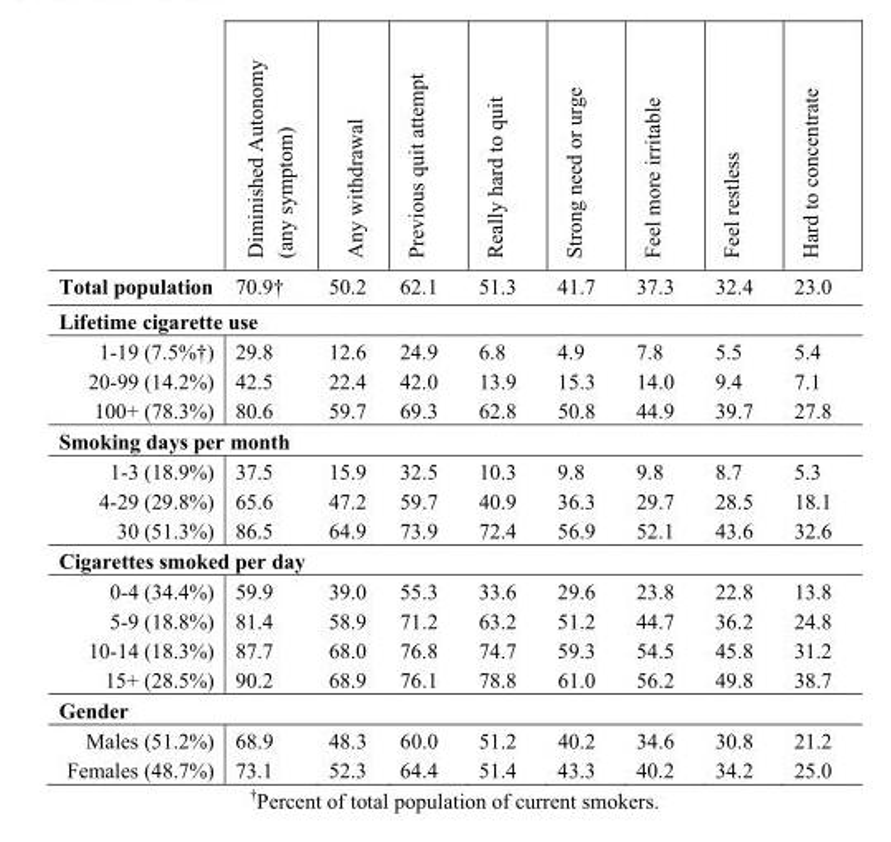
<table><thead><tr><td></td><td>Diminished Autonomy (any symptom)</td><td>Any withdrawal</td><td>Previous quit attempt</td><td>Really hard to quit</td><td>Strong need or urge</td><td>Feel more irritable</td><td>Feel restless</td><td>Hard to concentrate</td></tr></thead><tbody><tr><td>Total population</td><td>70.9†</td><td>50.2</td><td>62.1</td><td>51.3</td><td>41.7</td><td>37.3</td><td>32.4</td><td>23.0</td></tr><tr><td colspan="9">Lifetime cigarette use</td></tr><tr><td>1-19 (7.5%†)</td><td>29.8</td><td>12.6</td><td>24.9</td><td>6.8</td><td>4.9</td><td>7.8</td><td>5.5</td><td>5.4</td></tr><tr><td>20-99 (14.2%)</td><td>42.5</td><td>22.4</td><td>42.0</td><td>13.9</td><td>15.3</td><td>14.0</td><td>9.4</td><td>7.1</td></tr><tr><td>100+ (78.3%)</td><td>80.6</td><td>59.7</td><td>69.3</td><td>62.8</td><td>50.8</td><td>44.9</td><td>39.7</td><td>27.8</td></tr><tr><td colspan="9">Smoking days per month</td></tr><tr><td>1-3 (18.9%)</td><td>37.5</td><td>15.9</td><td>32.5</td><td>10.3</td><td>9.8</td><td>9.8</td><td>8.7</td><td>5.3</td></tr><tr><td>4-29 (29.8%)</td><td>65.6</td><td>47.2</td><td>59.7</td><td>40.9</td><td>36.3</td><td>29.7</td><td>28.5</td><td>18.1</td></tr><tr><td>30 (51.3%)</td><td>86.5</td><td>64.9</td><td>73.9</td><td>72.4</td><td>56.9</td><td>52.1</td><td>43.6</td><td>32.6</td></tr><tr><td colspan="9">Cigarettes smoked per day</td></tr><tr><td>0-4 (34.4%)</td><td>59.9</td><td>39.0</td><td>55.3</td><td>33.6</td><td>29.6</td><td>23.8</td><td>22.8</td><td>13.8</td></tr><tr><td>5-9 (18.8%)</td><td>81.4</td><td>58.9</td><td>71.2</td><td>63.2</td><td>51.2</td><td>44.7</td><td>36.2</td><td>24.8</td></tr><tr><td>10-14 (18.3%)</td><td>87.7</td><td>68.0</td><td>76.8</td><td>74.7</td><td>59.3</td><td>54.5</td><td>45.8</td><td>31.2</td></tr><tr><td>15+ (28.5%)</td><td>90.2</td><td>68.9</td><td>76.1</td><td>78.8</td><td>61.0</td><td>56.2</td><td>49.8</td><td>38.7</td></tr><tr><td colspan="9">Gender</td></tr><tr><td>Males (51.2%)</td><td>68.9</td><td>48.3</td><td>60.0</td><td>51.2</td><td>40.2</td><td>34.6</td><td>30.8</td><td>21.2</td></tr><tr><td>Females (48.7%)</td><td>73.1</td><td>52.3</td><td>64.4</td><td>51.4</td><td>43.3</td><td>40.2</td><td>34.2</td><td>25.0</td></tr></tbody></table>